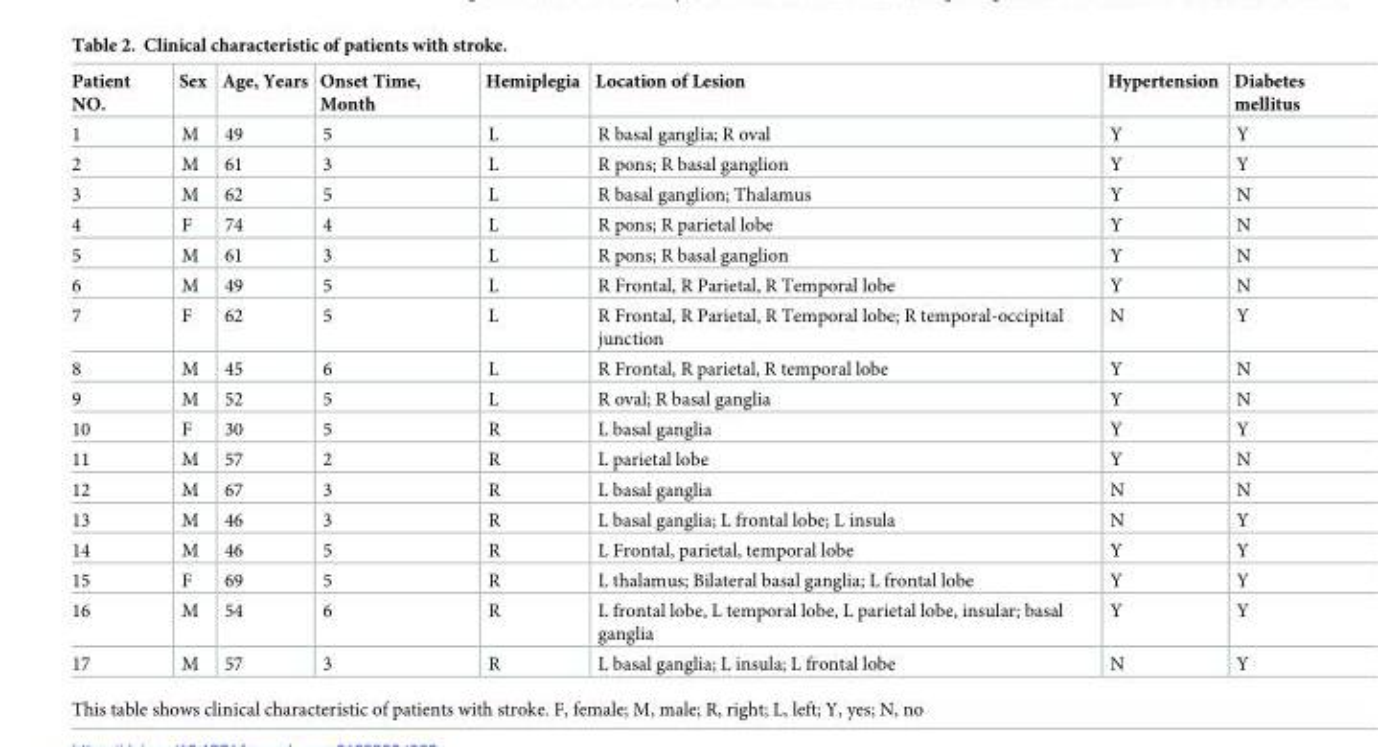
<table><thead><tr><td>Patient NO.</td><td>Sex</td><td>Age, Years</td><td>Onset Time, Month</td><td>Hemiplegia</td><td>Location of Lesion</td><td>Hypertension</td><td>Diabetes mellitus</td></tr></thead><tbody><tr><td>1</td><td>M</td><td>49</td><td>5</td><td>L</td><td>R basal ganglia; R oval</td><td>Y</td><td>Y</td></tr><tr><td>2</td><td>M</td><td>61</td><td>3</td><td>L</td><td>R pons; R basal ganglion</td><td>Y</td><td>Y</td></tr><tr><td>3</td><td>M</td><td>62</td><td>5</td><td>L</td><td>R basal ganglion; Thalamus</td><td>Y</td><td>N</td></tr><tr><td>4</td><td>F</td><td>74</td><td>4</td><td>L</td><td>R pons; R parietal lobe</td><td>Y</td><td>N</td></tr><tr><td>5</td><td>M</td><td>61</td><td>3</td><td>L</td><td>R pons; R basal ganglion</td><td>Y</td><td>N</td></tr><tr><td>6</td><td>M</td><td>49</td><td>5</td><td>L</td><td>R Frontal, R Parietal, R Temporal lobe</td><td>Y</td><td>N</td></tr><tr><td>7</td><td>F</td><td>62</td><td>5</td><td>L</td><td>R Frontal, R Parietal, R Temporal lobe; R temporal-occipital junction</td><td>N</td><td>Y</td></tr><tr><td>8</td><td>M</td><td>45</td><td>6</td><td>L</td><td>R Frontal, R parietal, R temporal lobe</td><td>Y</td><td>N</td></tr><tr><td>9</td><td>M</td><td>52</td><td>5</td><td>L</td><td>R oval; R basal ganglia</td><td>Y</td><td>N</td></tr><tr><td>10</td><td>F</td><td>30</td><td>5</td><td>R</td><td>L basal ganglia</td><td>Y</td><td>Y</td></tr><tr><td>11</td><td>M</td><td>57</td><td>2</td><td>R</td><td>L parietal lobe</td><td>Y</td><td>N</td></tr><tr><td>12</td><td>M</td><td>67</td><td>3</td><td>R</td><td>L basal ganglia</td><td>N</td><td>N</td></tr><tr><td>13</td><td>M</td><td>46</td><td>3</td><td>R</td><td>L basal ganglia; L frontal lobe; L insula</td><td>N</td><td>Y</td></tr><tr><td>14</td><td>M</td><td>46</td><td>5</td><td>R</td><td>L Frontal, parietal, temporal lobe</td><td>Y</td><td>Y</td></tr><tr><td>15</td><td>F</td><td>69</td><td>5</td><td>R</td><td>L thalamus; Bilateral basal ganglia; L frontal lobe</td><td>Y</td><td>Y</td></tr><tr><td>16</td><td>M</td><td>54</td><td>6</td><td>R</td><td>L frontal lobe, L temporal lobe, L parietal lobe, insular; basal ganglia</td><td>Y</td><td>Y</td></tr><tr><td>17</td><td>M</td><td>57</td><td>3</td><td>R</td><td>L basal ganglia; L insula; L frontal lobe</td><td>N</td><td>Y</td></tr></tbody></table>